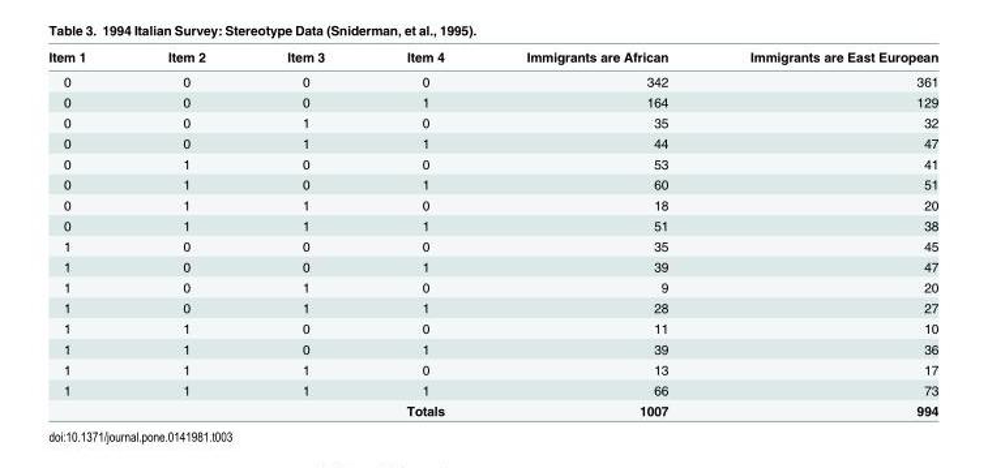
<table><thead><tr><td>Item 1</td><td>Item 2</td><td>Item 3</td><td>Item 4</td><td>Immigrants are African</td><td>Immigrants are East European</td></tr></thead><tbody><tr><td>0</td><td>0</td><td>0</td><td>0</td><td>342</td><td>361</td></tr><tr><td>0</td><td>0</td><td>0</td><td>1</td><td>164</td><td>129</td></tr><tr><td>0</td><td>0</td><td>1</td><td>0</td><td>35</td><td>32</td></tr><tr><td>0</td><td>0</td><td>1</td><td>1</td><td>44</td><td>47</td></tr><tr><td>0</td><td>1</td><td>0</td><td>0</td><td>53</td><td>41</td></tr><tr><td>0</td><td>1</td><td>0</td><td>1</td><td>60</td><td>51</td></tr><tr><td>0</td><td>1</td><td>1</td><td>0</td><td>18</td><td>20</td></tr><tr><td>0</td><td>1</td><td>1</td><td>1</td><td>51</td><td>38</td></tr><tr><td>1</td><td>0</td><td>0</td><td>0</td><td>35</td><td>45</td></tr><tr><td>1</td><td>0</td><td>0</td><td>1</td><td>39</td><td>47</td></tr><tr><td>1</td><td>0</td><td>1</td><td>0</td><td>9</td><td>20</td></tr><tr><td>1</td><td>0</td><td>1</td><td>1</td><td>28</td><td>27</td></tr><tr><td>1</td><td>1</td><td>0</td><td>0</td><td>11</td><td>10</td></tr><tr><td>1</td><td>1</td><td>0</td><td>1</td><td>39</td><td>36</td></tr><tr><td>1</td><td>1</td><td>1</td><td>0</td><td>13</td><td>17</td></tr><tr><td rowspan="2">1</td><td>1</td><td>1</td><td>1</td><td>66</td><td>73</td></tr><tr><td></td><td></td><td>Totals</td><td>1007</td><td>994</td></tr></tbody></table>